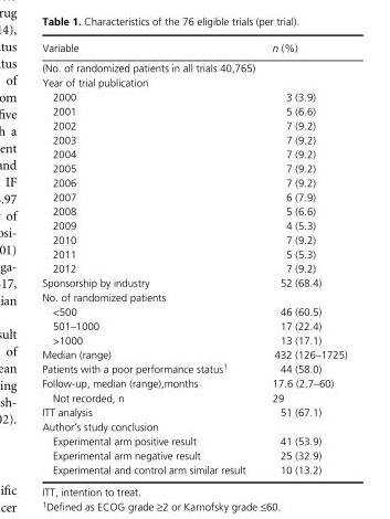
<table><thead><tr><td>Variable</td><td>n (%)</td></tr></thead><tbody><tr><td colspan="2">(No. of randomized patients in all trials 40,765)</td></tr><tr><td colspan="2">Year of trial publication</td></tr><tr><td>2000</td><td>3 (3.9)</td></tr><tr><td>2001</td><td>5 (6.6)</td></tr><tr><td>2002</td><td>7 (9.2)</td></tr><tr><td>2003</td><td>7 (9.2)</td></tr><tr><td>2004</td><td>7 (9.2)</td></tr><tr><td>2005</td><td>7 (9.2)</td></tr><tr><td>2006</td><td>7 (9.2)</td></tr><tr><td>2007</td><td>6 (7.9)</td></tr><tr><td>2008</td><td>5 (6.6)</td></tr><tr><td>2009</td><td>4 (5.3)</td></tr><tr><td>2010</td><td>7 (9.2)</td></tr><tr><td>2011</td><td>5 (5.3)</td></tr><tr><td>2012</td><td>7 (9.2)</td></tr><tr><td>Sponsorship by industry</td><td>52 (68.4)</td></tr><tr><td colspan="2">No. of randomized patients</td></tr><tr><td>&lt;500</td><td>46 (60.5)</td></tr><tr><td>501–1000</td><td>17 (22.4)</td></tr><tr><td>&gt;1000</td><td>13 (17.1)</td></tr><tr><td>Median (range)</td><td>432 (126–1725)</td></tr><tr><td>Patients with a poor performance status1</td><td>44 (58.0)</td></tr><tr><td>Follow- up, median (range),months Not recorded, n</td><td>17.6 (2.7–60) 29</td></tr><tr><td>ITT analysis</td><td>51 (67.1)</td></tr><tr><td colspan="2">Author′s study conclusion</td></tr><tr><td>Experimental arm positive result</td><td>41 (53.9)</td></tr><tr><td>Experimental arm negative result</td><td>25 (32.9)</td></tr><tr><td>Experimental and control arm similar result</td><td>10 (13.2)</td></tr></tbody></table>